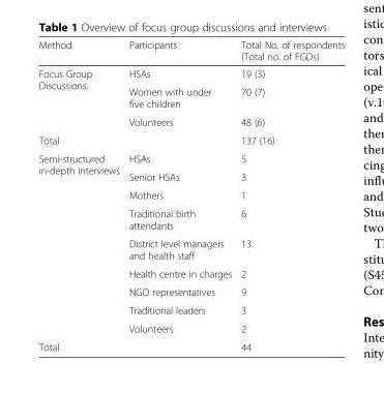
<table><thead><tr><td>Method</td><td>Participants</td><td>Total No. of respondents (Total no. of FGDs)</td></tr></thead><tbody><tr><td rowspan="3">Focus Group Discussions</td><td>HSAs</td><td>19 (3)</td></tr><tr><td>Women with under five children</td><td>70 (7)</td></tr><tr><td>Volunteers</td><td>48 (6)</td></tr><tr><td colspan="2">Total</td><td>137 (16)</td></tr><tr><td rowspan="9">Semi-structured in-depth interviews</td><td>HSAs</td><td>5</td></tr><tr><td>Senior HSAs</td><td>3</td></tr><tr><td>Mothers</td><td>1</td></tr><tr><td>Traditional birth attendants</td><td>6</td></tr><tr><td>District level managers and health staff</td><td>13</td></tr><tr><td>Health centre in charges</td><td>2</td></tr><tr><td>NGO representatives</td><td>9</td></tr><tr><td>Traditional leaders</td><td>3</td></tr><tr><td>Volunteers</td><td>2</td></tr><tr><td colspan="2">Total</td><td>44</td></tr></tbody></table>